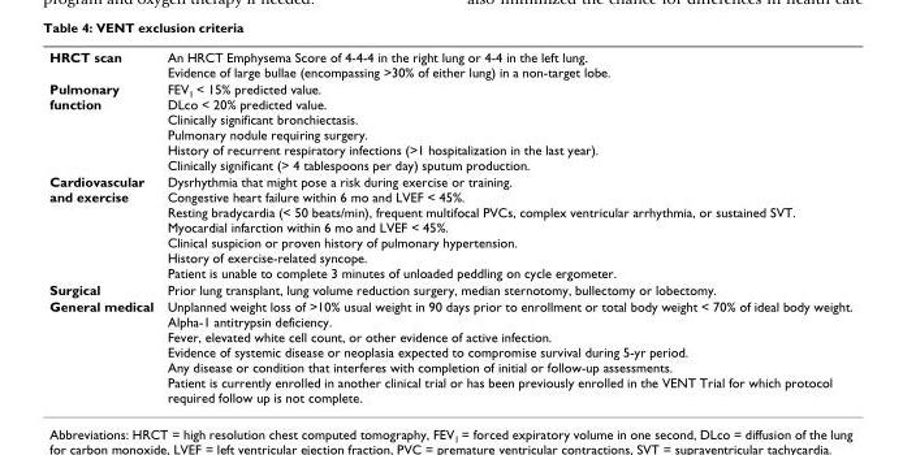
<table><tbody><tr><td>HRCT scan</td><td>An HRCT Emphysema Score of 4-4-4 in the right lung or 4-4 in the left lung. Evidence of large bullae (encompassing &gt;30% of either lung) in a non-target lobe.</td></tr><tr><td>Pulmonary function</td><td>FEV<sub>1</sub> &lt; 15% predicted value. DLco &lt; 20% predicted value. Clinically significant bronchiectasis. Pulmonary nodule requiring surgery. History of recurrent respiratory infections (&gt;1 hospitalization in the last year). Clinically significant (&gt; 4 tablespoons per day) sputum production.</td></tr><tr><td>Cardiovascular and exercise</td><td>Dysrhythmia that might pose a risk during exercise or training. Congestive heart failure within 6 mo and LVEF &lt; 45%. Resting bradycardia (&lt; 50 beats/min), frequent multifocal PVCs, complex ventricular arrhythmia, or sustained SVT. Myocardial infarction within 6 mo and LVEF &lt; 45%. Clinical suspicion or proven history of pulmonary hypertension. History of exercise-related syncope. Patient is unable to complete 3 minutes of unloaded peddling on cycle ergometer.</td></tr><tr><td>Surgical</td><td>Prior lung transplant, lung volume reduction surgery, median sternotomy, bullectomy or lobectomy.</td></tr><tr><td>General medical</td><td>Unplanned weight loss of &gt;10% usual weight in 90 days prior to enrollment or total body weight &lt; 70% of ideal body weight. Alpha-1 antitrypsin deficiency. Fever, elevated white cell count, or other evidence of active infection. Evidence of systemic disease or neoplasia expected to compromise survival during 5-yr period. Any disease or condition that interferes with completion of initial or follow-up assessments. Patient is currently enrolled in another clinical trial or has been previously enrolled in the VENT Trial for which protocol required follow up is not complete.</td></tr></tbody></table>